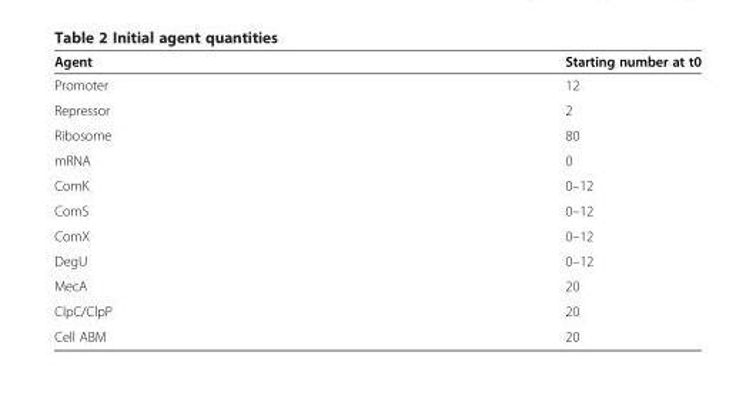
<table><thead><tr><td>Agent</td><td>Starting number at t0</td></tr></thead><tbody><tr><td>Promoter</td><td>12</td></tr><tr><td>Repressor</td><td>2</td></tr><tr><td>Ribosome</td><td>80</td></tr><tr><td>mRNA</td><td>0</td></tr><tr><td>ComK</td><td>0–12</td></tr><tr><td>ComS</td><td>0–12</td></tr><tr><td>ComX</td><td>0–12</td></tr><tr><td>DegU</td><td>0–12</td></tr><tr><td>MecA</td><td>20</td></tr><tr><td>ClpC/ClpP</td><td>20</td></tr><tr><td>Cell ABM</td><td>20</td></tr></tbody></table>